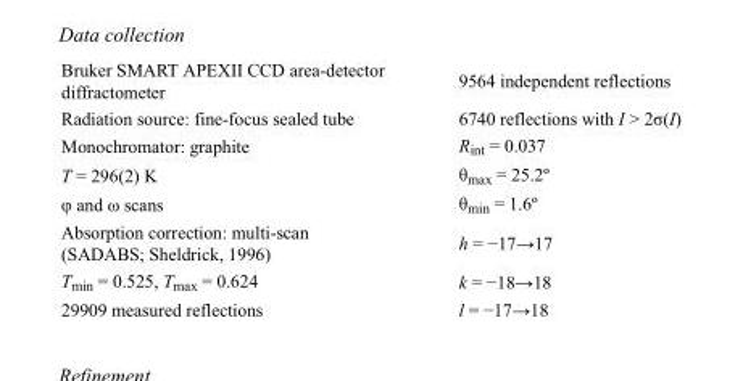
<table><tbody><tr><td>Bruker SMART APEXII CCD area-detector diffractometer</td><td>9564 independent reflections</td></tr><tr><td>Radiation source: fine-focus sealed tube</td><td>6740 reflections with I &gt; 2σ(I)</td></tr><tr><td>Monochromator: graphite</td><td>R<sub>int</sub> = 0.037</td></tr><tr><td>T = 296(2) K</td><td>θ<sub>max</sub> = 25.2º</td></tr><tr><td>φ and ω scans</td><td>θ<sub>min</sub> = 1.6º</td></tr><tr><td>Absorption correction: multi-scan (SADABS; Sheldrick, 1996)</td><td>h = −17→17</td></tr><tr><td>T<sub>min</sub> = 0.525, T<sub>max</sub> = 0.624</td><td>k = −18→18</td></tr><tr><td>29909 measured reflections</td><td>l = −17→18</td></tr></tbody></table>